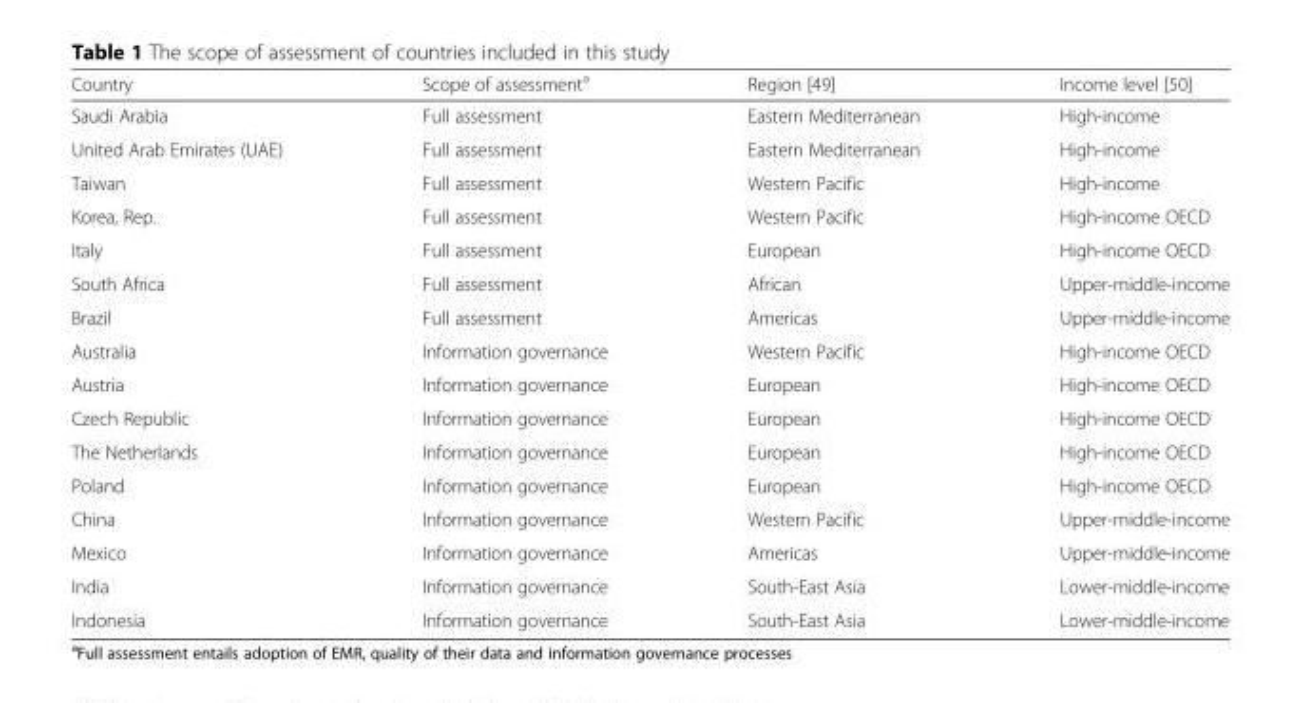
<table><thead><tr><td>Country</td><td>Scope of assessment<sup>a</sup></td><td>Region [49]</td><td>Income level [50]</td></tr></thead><tbody><tr><td>Saudi Arabia</td><td>Full assessment</td><td>Eastern Mediterranean</td><td>High-income</td></tr><tr><td>United Arab Emirates (UAE)</td><td>Full assessment</td><td>Eastern Mediterranean</td><td>High-income</td></tr><tr><td>Taiwan</td><td>Full assessment</td><td>Western Pacific</td><td>High-income</td></tr><tr><td>Korea, Rep.</td><td>Full assessment</td><td>Western Pacific</td><td>High-income OECD</td></tr><tr><td>Italy</td><td>Full assessment</td><td>European</td><td>High-income OECD</td></tr><tr><td>South Africa</td><td>Full assessment</td><td>African</td><td>Upper-middle-income</td></tr><tr><td>Brazil</td><td>Full assessment</td><td>Americas</td><td>Upper-middle-income</td></tr><tr><td>Australia</td><td>Information governance</td><td>Western Pacific</td><td>High-income OECD</td></tr><tr><td>Austria</td><td>Information governance</td><td>European</td><td>High-income OECD</td></tr><tr><td>Czech Republic</td><td>Information governance</td><td>European</td><td>High-income OECD</td></tr><tr><td>The Netherlands</td><td>Information governance</td><td>European</td><td>High-income OECD</td></tr><tr><td>Poland</td><td>Information governance</td><td>European</td><td>High-income OECD</td></tr><tr><td>China</td><td>Information governance</td><td>Western Pacific</td><td>Upper-middle-income</td></tr><tr><td>Mexico</td><td>Information governance</td><td>Americas</td><td>Upper-middle-income</td></tr><tr><td>India</td><td>Information governance</td><td>South-East Asia</td><td>Lower-middle-income</td></tr><tr><td>Indonesia</td><td>Information governance</td><td>South-East Asia</td><td>Lower-middle-income</td></tr></tbody></table>